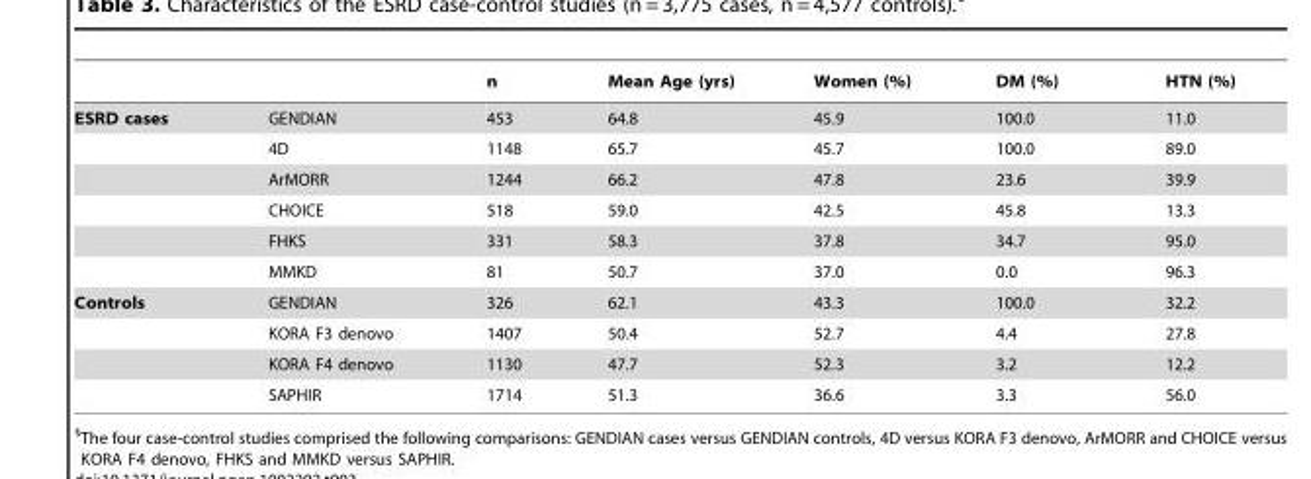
<table><thead><tr><td></td><td></td><td>n</td><td>Mean Age (yrs)</td><td>Women (%)</td><td>DM (%)</td><td>HTN (%)</td></tr></thead><tbody><tr><td rowspan="6">ESRD cases</td><td>GENDIAN</td><td>453</td><td>64.8</td><td>45.9</td><td>100.0</td><td>11.0</td></tr><tr><td>4D</td><td>1148</td><td>65.7</td><td>45.7</td><td>100.0</td><td>89.0</td></tr><tr><td>ArMORR</td><td>1244</td><td>66.2</td><td>47.8</td><td>23.6</td><td>39.9</td></tr><tr><td>CHOICE</td><td>518</td><td>59.0</td><td>42.5</td><td>45.8</td><td>13.3</td></tr><tr><td>FHKS</td><td>331</td><td>58.3</td><td>37.8</td><td>34.7</td><td>95.0</td></tr><tr><td>MMKD</td><td>81</td><td>50.7</td><td>37.0</td><td>0.0</td><td>96.3</td></tr><tr><td rowspan="4">Controls</td><td>GENDIAN</td><td>326</td><td>62.1</td><td>43.3</td><td>100.0</td><td>32.2</td></tr><tr><td>KORA F3 denovo</td><td>1407</td><td>50.4</td><td>52.7</td><td>4.4</td><td>27.8</td></tr><tr><td>KORA F4 denovo</td><td>1130</td><td>47.7</td><td>52.3</td><td>3.2</td><td>12.2</td></tr><tr><td>SAPHIR</td><td>1714</td><td>51.3</td><td>36.6</td><td>3.3</td><td>56.0</td></tr></tbody></table>